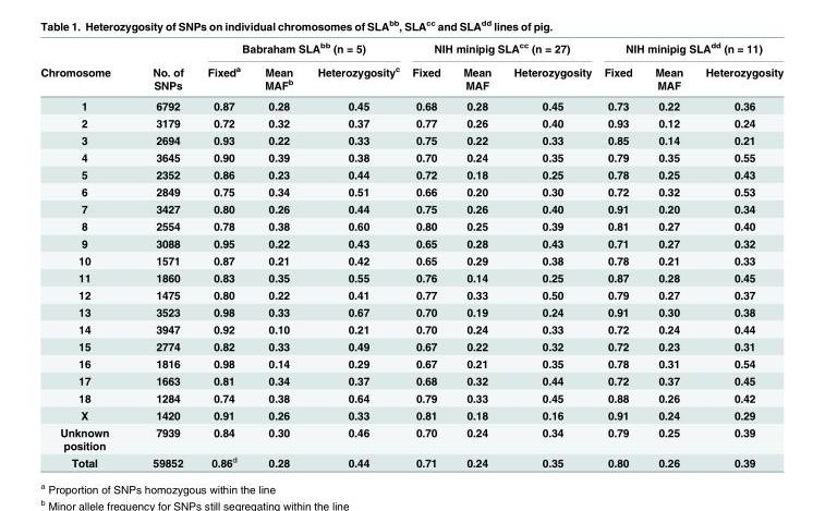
<table><thead><tr><td rowspan="2">Chromosome</td><td rowspan="2">No. of SNPs</td><td colspan="3">Babraham SLA<sup>bb</sup> (n = 5)</td><td colspan="3">NIH minipig SLA<sup>cc</sup> (n = 27)</td><td colspan="3">NIH minipig SLA<sup>dd</sup> (n = 11)</td></tr><tr><td>Fixed<sup>a</sup></td><td>Mean MAF<sup>b</sup></td><td>Heterozygosity<sup>c</sup></td><td>Fixed</td><td>Mean MAF</td><td>Heterozygosity</td><td>Fixed</td><td>Mean MAF</td><td>Heterozygosity</td></tr></thead><tbody><tr><td>1</td><td>6792</td><td>0.87</td><td>0.28</td><td>0.45</td><td>0.68</td><td>0.28</td><td>0.45</td><td>0.73</td><td>0.22</td><td>0.36</td></tr><tr><td>2</td><td>3179</td><td>0.72</td><td>0.32</td><td>0.37</td><td>0.77</td><td>0.26</td><td>0.40</td><td>0.93</td><td>0.12</td><td>0.24</td></tr><tr><td>3</td><td>2694</td><td>0.93</td><td>0.22</td><td>0.33</td><td>0.75</td><td>0.22</td><td>0.33</td><td>0.85</td><td>0.14</td><td>0.21</td></tr><tr><td>4</td><td>3645</td><td>0.90</td><td>0.39</td><td>0.38</td><td>0.70</td><td>0.24</td><td>0.35</td><td>0.79</td><td>0.35</td><td>0.55</td></tr><tr><td>5</td><td>2352</td><td>0.86</td><td>0.23</td><td>0.44</td><td>0.72</td><td>0.18</td><td>0.25</td><td>0.78</td><td>0.25</td><td>0.43</td></tr><tr><td>6</td><td>2849</td><td>0.75</td><td>0.34</td><td>0.51</td><td>0.66</td><td>0.20</td><td>0.30</td><td>0.72</td><td>0.32</td><td>0.53</td></tr><tr><td>7</td><td>3427</td><td>0.80</td><td>0.26</td><td>0.44</td><td>0.75</td><td>0.26</td><td>0.40</td><td>0.91</td><td>0.20</td><td>0.34</td></tr><tr><td>8</td><td>2554</td><td>0.78</td><td>0.38</td><td>0.60</td><td>0.80</td><td>0.25</td><td>0.39</td><td>0.81</td><td>0.27</td><td>0.40</td></tr><tr><td>9</td><td>3088</td><td>0.95</td><td>0.22</td><td>0.43</td><td>0.65</td><td>0.28</td><td>0.43</td><td>0.71</td><td>0.27</td><td>0.32</td></tr><tr><td>10</td><td>1571</td><td>0.87</td><td>0.21</td><td>0.42</td><td>0.65</td><td>0.29</td><td>0.38</td><td>0.78</td><td>0.21</td><td>0.33</td></tr><tr><td>11</td><td>1860</td><td>0.83</td><td>0.35</td><td>0.55</td><td>0.76</td><td>0.14</td><td>0.25</td><td>0.87</td><td>0.28</td><td>0.45</td></tr><tr><td>12</td><td>1475</td><td>0.80</td><td>0.22</td><td>0.41</td><td>0.77</td><td>0.33</td><td>0.50</td><td>0.79</td><td>0.27</td><td>0.37</td></tr><tr><td>13</td><td>3523</td><td>0.98</td><td>0.33</td><td>0.67</td><td>0.70</td><td>0.19</td><td>0.24</td><td>0.91</td><td>0.30</td><td>0.38</td></tr><tr><td>14</td><td>3947</td><td>0.92</td><td>0.10</td><td>0.21</td><td>0.70</td><td>0.24</td><td>0.33</td><td>0.72</td><td>0.24</td><td>0.44</td></tr><tr><td>15</td><td>2774</td><td>0.82</td><td>0.33</td><td>0.49</td><td>0.67</td><td>0.22</td><td>0.32</td><td>0.72</td><td>0.23</td><td>0.31</td></tr><tr><td>16</td><td>1816</td><td>0.98</td><td>0.14</td><td>0.29</td><td>0.67</td><td>0.21</td><td>0.35</td><td>0.78</td><td>0.31</td><td>0.54</td></tr><tr><td>17</td><td>1663</td><td>0.81</td><td>0.34</td><td>0.37</td><td>0.68</td><td>0.32</td><td>0.44</td><td>0.72</td><td>0.37</td><td>0.45</td></tr><tr><td>18</td><td>1284</td><td>0.74</td><td>0.38</td><td>0.64</td><td>0.79</td><td>0.33</td><td>0.45</td><td>0.88</td><td>0.26</td><td>0.42</td></tr><tr><td>X</td><td>1420</td><td>0.91</td><td>0.26</td><td>0.33</td><td>0.81</td><td>0.18</td><td>0.16</td><td>0.91</td><td>0.24</td><td>0.29</td></tr><tr><td>Unknown position</td><td>7939</td><td>0.84</td><td>0.30</td><td>0.46</td><td>0.70</td><td>0.24</td><td>0.34</td><td>0.79</td><td>0.25</td><td>0.39</td></tr><tr><td>Total</td><td>59852</td><td>0.86<sup>d</sup></td><td>0.28</td><td>0.44</td><td>0.71</td><td>0.24</td><td>0.35</td><td>0.80</td><td>0.26</td><td>0.39</td></tr></tbody></table>